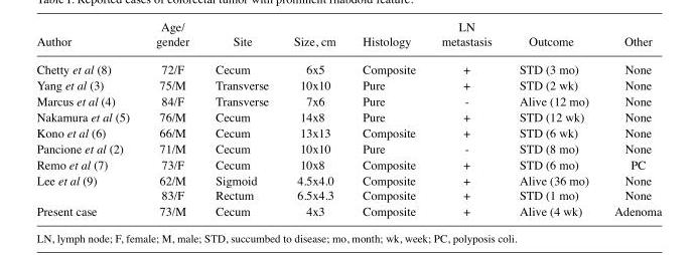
<table><thead><tr><td>Author</td><td>gender</td><td>Site</td><td>Size, cm</td><td>Histology</td><td>metastasis</td><td>Outcome</td><td>Other</td></tr></thead><tbody><tr><td>Chetty et al (8)</td><td>72/F</td><td>Cecum</td><td>6x5</td><td>Composite</td><td>+</td><td>STD (3 mo)</td><td>None</td></tr><tr><td>Yang et al (3)</td><td>75/M</td><td>Transverse</td><td>10x10</td><td>Pure</td><td>+</td><td>STD (2 wk)</td><td>None</td></tr><tr><td>Marcus et al (4)</td><td>84/F</td><td>Transverse</td><td>7x6</td><td>Pure</td><td>-</td><td>Alive (12 mo)</td><td>None</td></tr><tr><td>Nakamura et al (5)</td><td>76/M</td><td>Cecum</td><td>14x8</td><td>Pure</td><td>+</td><td>STD (12 wk)</td><td>None</td></tr><tr><td>Kono et al (6)</td><td>66/M</td><td>Cecum</td><td>13x13</td><td>Composite</td><td>+</td><td>STD (6 wk)</td><td>None</td></tr><tr><td>Pancione et al (2)</td><td>71/M</td><td>Cecum</td><td>10x10</td><td>Pure</td><td>-</td><td>STD (8 mo)</td><td>None</td></tr><tr><td>Remo et al (7)</td><td>73/F</td><td>Cecum</td><td>10x8</td><td>Composite</td><td>+</td><td>STD (6 mo)</td><td>PC</td></tr><tr><td rowspan="2">Lee et al (9)</td><td>62/M</td><td>Sigmoid</td><td>4.5x4.0</td><td>Composite</td><td>+</td><td>Alive (36 mo)</td><td>None</td></tr><tr><td>83/F</td><td>Rectum</td><td>6.5x4.3</td><td>Composite</td><td>+</td><td>STD (1 mo)</td><td>None</td></tr><tr><td>Present case</td><td>73/M</td><td>Cecum</td><td>4x3</td><td>Composite</td><td>+</td><td>Alive (4 wk)</td><td>Adenoma</td></tr></tbody></table>